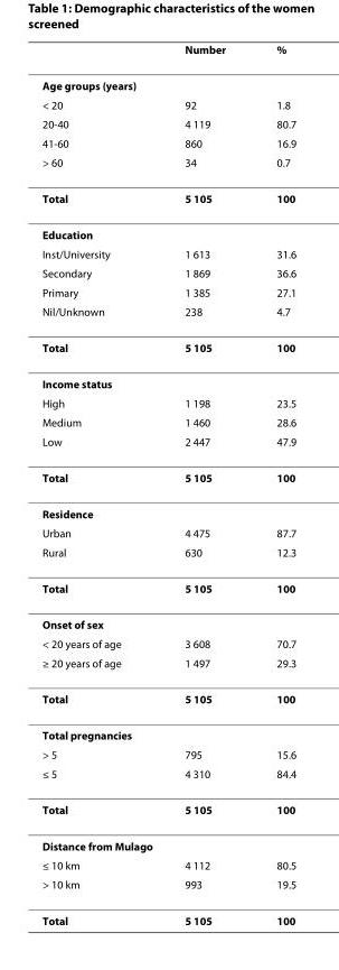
<table><thead><tr><td></td><td>Number</td><td>%</td></tr></thead><tbody><tr><td colspan="3">Age groups (years)</td></tr><tr><td>&lt; 20</td><td>92</td><td>1.8</td></tr><tr><td>20-40</td><td>4 119</td><td>80.7</td></tr><tr><td>41-60</td><td>860</td><td>16.9</td></tr><tr><td>&gt; 60</td><td>34</td><td>0.7</td></tr><tr><td>Total</td><td>5 105</td><td>100</td></tr><tr><td colspan="3">Education</td></tr><tr><td>Inst/University</td><td>1 613</td><td>31.6</td></tr><tr><td>Secondary</td><td>1 869</td><td>36.6</td></tr><tr><td>Primary</td><td>1 385</td><td>27.1</td></tr><tr><td>Nil/Unknown</td><td>238</td><td>4.7</td></tr><tr><td>Total</td><td>5 105</td><td>100</td></tr><tr><td colspan="3">Income status</td></tr><tr><td>High</td><td>1 198</td><td>23.5</td></tr><tr><td>Medium</td><td>1 460</td><td>28.6</td></tr><tr><td>Low</td><td>2 447</td><td>47.9</td></tr><tr><td>Total</td><td>5 105</td><td>100</td></tr><tr><td colspan="3">Residence</td></tr><tr><td>Urban</td><td>4 475</td><td>87.7</td></tr><tr><td>Rural</td><td>630</td><td>12.3</td></tr><tr><td>Total</td><td>5 105</td><td>100</td></tr><tr><td colspan="3">Onset of sex</td></tr><tr><td>&lt; 20 years of age</td><td>3 608</td><td>70.7</td></tr><tr><td>≥ 20 years of age</td><td>1 497</td><td>29.3</td></tr><tr><td>Total</td><td>5 105</td><td>100</td></tr><tr><td colspan="3">Total pregnancies</td></tr><tr><td>&gt; 5</td><td>795</td><td>15.6</td></tr><tr><td>≤ 5</td><td>4 310</td><td>84.4</td></tr><tr><td>Total</td><td>5 105</td><td>100</td></tr><tr><td colspan="3">Distance from Mulago</td></tr><tr><td>≤ 10 km</td><td>4 112</td><td>80.5</td></tr><tr><td>&gt; 10 km</td><td>993</td><td>19.5</td></tr><tr><td>Total</td><td>5 105</td><td>100</td></tr></tbody></table>